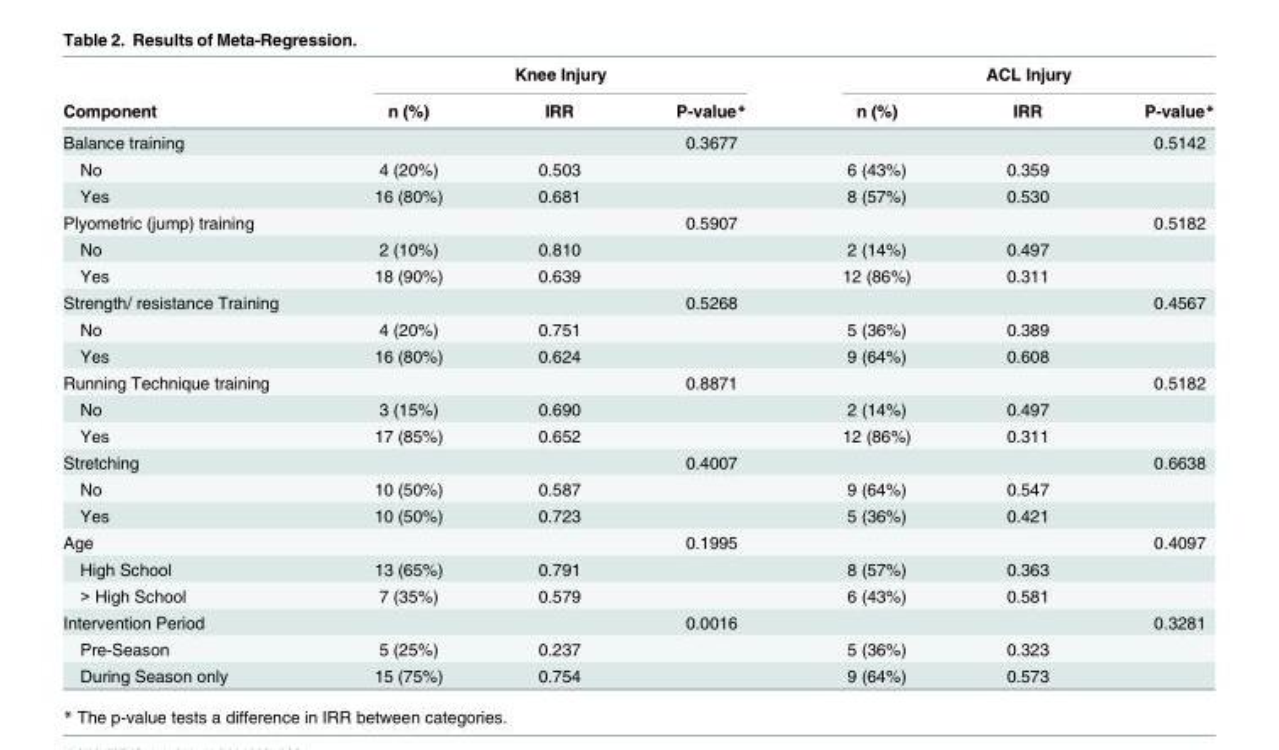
<table><thead><tr><td rowspan="2">Component</td><td colspan="3">Knee Injury</td><td colspan="3">ACL Injury</td></tr><tr><td>n (%)</td><td>IRR</td><td>P-value*</td><td>n (%)</td><td>IRR</td><td>P-value*</td></tr></thead><tbody><tr><td>Balance training</td><td></td><td></td><td>0.3677</td><td></td><td></td><td>0.5142</td></tr><tr><td>No</td><td>4 (20%)</td><td>0.503</td><td></td><td>6 (43%)</td><td>0.359</td><td></td></tr><tr><td>Yes</td><td>16 (80%)</td><td>0.681</td><td></td><td>8 (57%)</td><td>0.530</td><td></td></tr><tr><td>Plyometric (jump) training</td><td></td><td></td><td>0.5907</td><td></td><td></td><td>0.5182</td></tr><tr><td>No</td><td>2 (10%)</td><td>0.810</td><td></td><td>2 (14%)</td><td>0.497</td><td></td></tr><tr><td>Yes</td><td>18 (90%)</td><td>0.639</td><td></td><td>12 (86%)</td><td>0.311</td><td></td></tr><tr><td>Strength/ resistance Training</td><td></td><td></td><td>0.5268</td><td></td><td></td><td>0.4567</td></tr><tr><td>No</td><td>4 (20%)</td><td>0.751</td><td></td><td>5 (36%)</td><td>0.389</td><td></td></tr><tr><td>Yes</td><td>16 (80%)</td><td>0.624</td><td></td><td>9 (64%)</td><td>0.608</td><td></td></tr><tr><td>Running Technique training</td><td></td><td></td><td>0.8871</td><td></td><td></td><td>0.5182</td></tr><tr><td>No</td><td>3 (15%)</td><td>0.690</td><td></td><td>2 (14%)</td><td>0.497</td><td></td></tr><tr><td>Yes</td><td>17 (85%)</td><td>0.652</td><td></td><td>12 (86%)</td><td>0.311</td><td></td></tr><tr><td>Stretching</td><td></td><td></td><td>0.4007</td><td></td><td></td><td>0.6638</td></tr><tr><td>No</td><td>10 (50%)</td><td>0.587</td><td></td><td>9 (64%)</td><td>0.547</td><td></td></tr><tr><td>Yes</td><td>10 (50%)</td><td>0.723</td><td></td><td>5 (36%)</td><td>0.421</td><td></td></tr><tr><td>Age</td><td></td><td></td><td>0.1995</td><td></td><td></td><td>0.4097</td></tr><tr><td>High School</td><td>13 (65%)</td><td>0.791</td><td></td><td>8 (57%)</td><td>0.363</td><td></td></tr><tr><td>&gt; High School</td><td>7 (35%)</td><td>0.579</td><td></td><td>6 (43%)</td><td>0.581</td><td></td></tr><tr><td>Intervention Period</td><td></td><td></td><td>0.0016</td><td></td><td></td><td>0.3281</td></tr><tr><td>Pre-Season</td><td>5 (25%)</td><td>0.237</td><td></td><td>5 (36%)</td><td>0.323</td><td></td></tr><tr><td>During Season only</td><td>15 (75%)</td><td>0.754</td><td></td><td>9 (64%)</td><td>0.573</td><td></td></tr></tbody></table>